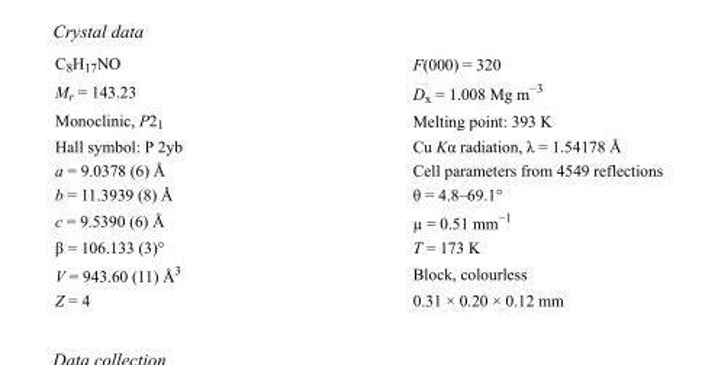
<table><tbody><tr><td>C<sub>8</sub>H<sub>17</sub>NO</td><td>F(000) = 320</td></tr><tr><td>M<sub>r</sub> = 143.23</td><td>D<sub>x</sub> = 1.008 Mg m<sup>−3</sup></td></tr><tr><td>Monoclinic, P2<sub>1</sub></td><td>Melting point: 393 K</td></tr><tr><td>Hall symbol: P 2yb</td><td>Cu Kα radiation, λ = 1.54178 Å</td></tr><tr><td>a = 9.0378 (6) Å</td><td>Cell parameters from 4549 reflections</td></tr><tr><td>b = 11.3939 (8) Å</td><td>θ = 4.8–69.1°</td></tr><tr><td>c = 9.5390 (6) Å</td><td>µ = 0.51 mm<sup>−1</sup></td></tr><tr><td>β = 106.133 (3)°</td><td>T = 173 K</td></tr><tr><td>V = 943.60 (11) Å<sup>3</sup></td><td>Block, colourless</td></tr><tr><td>Z = 4</td><td>0.31 × 0.20 × 0.12 mm</td></tr></tbody></table>